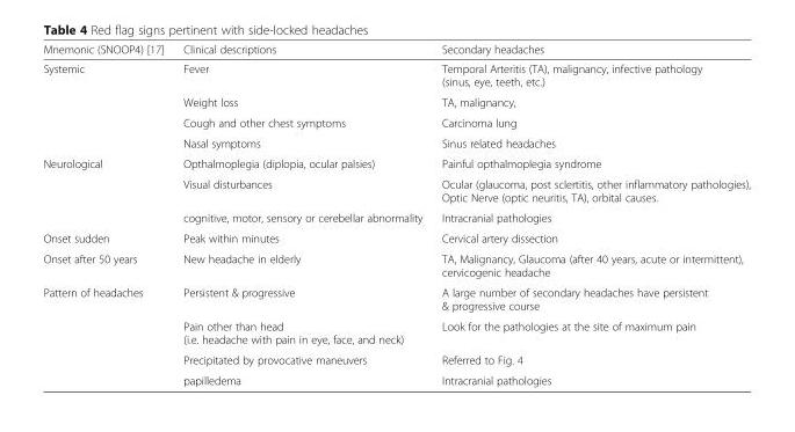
<table><thead><tr><td>Mnemonic (SNOOP4) [17]</td><td>Clinical descriptions</td><td>Secondary headaches</td></tr></thead><tbody><tr><td rowspan="4">Systemic</td><td>Fever</td><td>Temporal Arteritis (TA), malignancy, infective pathology (sinus, eye, teeth, etc.)</td></tr><tr><td>Weight loss</td><td>TA, malignancy,</td></tr><tr><td>Cough and other chest symptoms</td><td>Carcinoma lung</td></tr><tr><td>Nasal symptoms</td><td>Sinus related headaches</td></tr><tr><td rowspan="3">Neurological</td><td>Opthalmoplegia (diplopia, ocular palsies)</td><td>Painful opthalmoplegia syndrome</td></tr><tr><td>Visual disturbances</td><td>Ocular (glaucoma, post sclertitis, other inflammatory pathologies), Optic Nerve (optic neuritis, TA), orbital causes.</td></tr><tr><td>cognitive, motor, sensory or cerebellar abnormality</td><td>Intracranial pathologies</td></tr><tr><td>Onset sudden</td><td>Peak within minutes</td><td>Cervical artery dissection</td></tr><tr><td>Onset after 50 years</td><td>New headache in elderly</td><td>TA, Malignancy, Glaucoma (after 40 years, acute or intermittent), cervicogenic headache</td></tr><tr><td rowspan="4">Pattern of headaches</td><td>Persistent &amp; progressive</td><td>A large number of secondary headaches have persistent &amp; progressive course</td></tr><tr><td>Pain other than head (i.e. headache with pain in eye, face, and neck)</td><td>Look for the pathologies at the site of maximum pain</td></tr><tr><td>Precipitated by provocative maneuvers</td><td>Referred to Fig. 4</td></tr><tr><td>papilledema</td><td>Intracranial pathologies</td></tr></tbody></table>